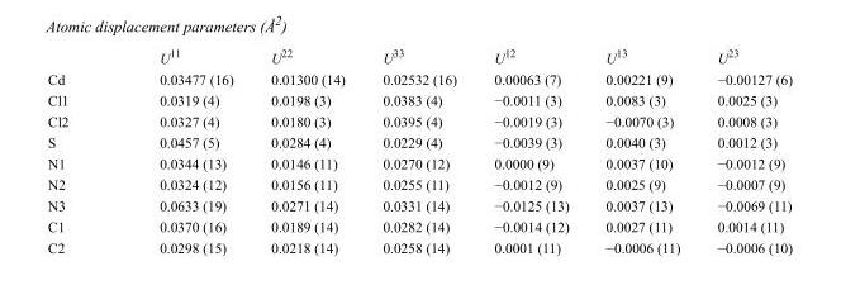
<table><thead><tr><td></td><td>U<sup>11</sup></td><td>U<sup>22</sup></td><td>U<sup>33</sup></td><td>U<sup>12</sup></td><td>U<sup>13</sup></td><td>U<sup>23</sup></td></tr></thead><tbody><tr><td>Cd</td><td>0.03477 (16)</td><td>0.01300 (14)</td><td>0.02532 (16)</td><td>0.00063 (7)</td><td>0.00221 (9)</td><td>−0.00127 (6)</td></tr><tr><td>Cl1</td><td>0.0319 (4)</td><td>0.0198 (3)</td><td>0.0383 (4)</td><td>−0.0011 (3)</td><td>0.0083 (3)</td><td>0.0025 (3)</td></tr><tr><td>Cl2</td><td>0.0327 (4)</td><td>0.0180 (3)</td><td>0.0395 (4)</td><td>−0.0019 (3)</td><td>−0.0070 (3)</td><td>0.0008 (3)</td></tr><tr><td>S</td><td>0.0457 (5)</td><td>0.0284 (4)</td><td>0.0229 (4)</td><td>−0.0039 (3)</td><td>0.0040 (3)</td><td>0.0012 (3)</td></tr><tr><td>N1</td><td>0.0344 (13)</td><td>0.0146 (11)</td><td>0.0270 (12)</td><td>0.0000 (9)</td><td>0.0037 (10)</td><td>−0.0012 (9)</td></tr><tr><td>N2</td><td>0.0324 (12)</td><td>0.0156 (11)</td><td>0.0255 (11)</td><td>−0.0012 (9)</td><td>0.0025 (9)</td><td>−0.0007 (9)</td></tr><tr><td>N3</td><td>0.0633 (19)</td><td>0.0271 (14)</td><td>0.0331 (14)</td><td>−0.0125 (13)</td><td>0.0037 (13)</td><td>−0.0069 (11)</td></tr><tr><td>C1</td><td>0.0370 (16)</td><td>0.0189 (14)</td><td>0.0282 (14)</td><td>−0.0014 (12)</td><td>0.0027 (11)</td><td>0.0014 (11)</td></tr><tr><td>C2</td><td>0.0298 (15)</td><td>0.0218 (14)</td><td>0.0258 (14)</td><td>0.0001 (11)</td><td>−0.0006 (11)</td><td>−0.0006 (10)</td></tr></tbody></table>